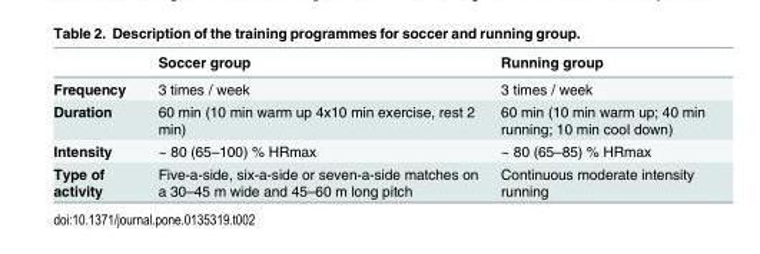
<table><thead><tr><td></td><td>Soccer group</td><td>Running group</td></tr></thead><tbody><tr><td>Frequency</td><td>3 times / week</td><td>3 times / week</td></tr><tr><td>Duration</td><td>60 min (10 min warm up 4x10 min exercise, rest 2 min)</td><td>60 min (10 min warm up; 40 min running; 10 min cool down)</td></tr><tr><td>Intensity</td><td>~ 80 (65–100) % HRmax</td><td>~ 80 (65–85) % HRmax</td></tr><tr><td>Type of activity</td><td>Five-a-side, six-a-side or seven-a-side matches on a 30–45 m wide and 45–60 m long pitch</td><td>Continuous moderate intensity running</td></tr></tbody></table>